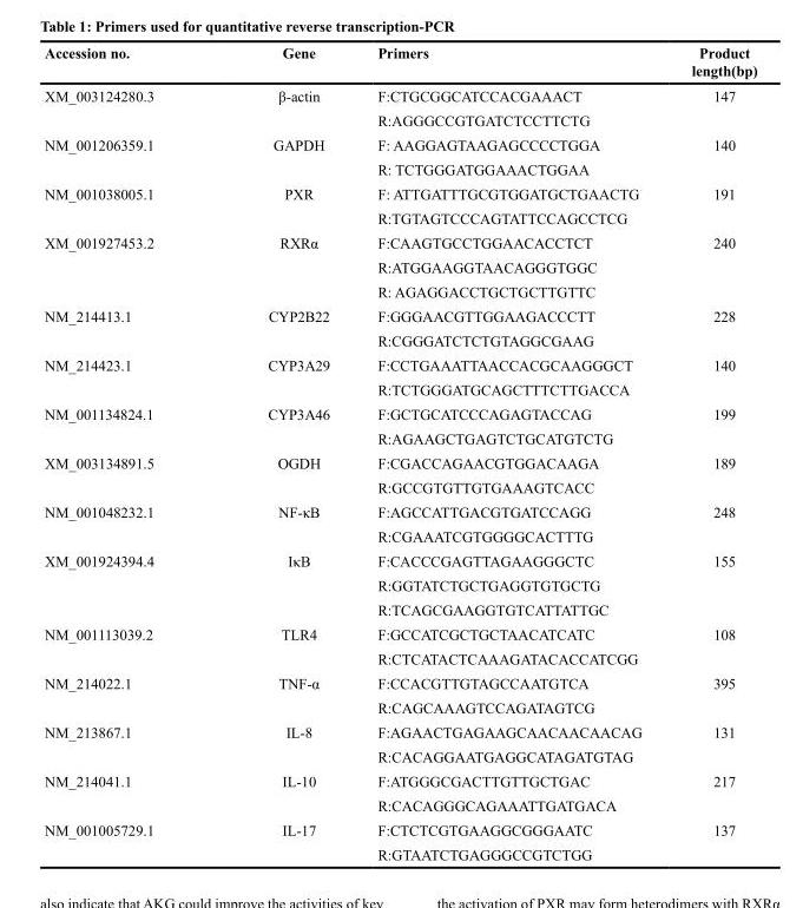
<table><thead><tr><td>Accession no.</td><td>Gene</td><td>Primers</td><td>Product length(bp)</td></tr></thead><tbody><tr><td rowspan="2">XM_003124280.3</td><td>β-actin</td><td>F:CTGCGGCATCCACGAAACT</td><td>147</td></tr><tr><td></td><td>R:AGGGCCGTGATCTCCTTCTG</td><td></td></tr><tr><td rowspan="2">NM_001206359.1</td><td>GAPDH</td><td>F: AAGGAGTAAGAGCCCCTGGA</td><td>140</td></tr><tr><td></td><td>R: TCTGGGATGGAAACTGGAA</td><td></td></tr><tr><td rowspan="2">NM_001038005.1</td><td>PXR</td><td>F: ATTGATTTGCGTGGATGCTGAACTG</td><td>191</td></tr><tr><td></td><td>R:TGTAGTCCCAGTATTCCAGCCTCG</td><td></td></tr><tr><td rowspan="3">XM_001927453.2</td><td>RXRα</td><td>F:CAAGTGCCTGGAACACCTCT</td><td>240</td></tr><tr><td></td><td>R:ATGGAAGGTAACAGGGTGGC</td><td></td></tr><tr><td></td><td>R: AGAGGACCTGCTGCTTGTTC</td><td></td></tr><tr><td rowspan="2">NM_214413.1</td><td>CYP2B22</td><td>F:GGGAACGTTGGAAGACCCTT</td><td>228</td></tr><tr><td></td><td>R:CGGGATCTCTGTAGGCGAAG</td><td></td></tr><tr><td rowspan="2">NM_214423.1</td><td>CYP3A29</td><td>F:CCTGAAATTAACCACGCAAGGGCT</td><td>140</td></tr><tr><td></td><td>R:TCTGGGATGCAGCTTTCTTGACCA</td><td></td></tr><tr><td rowspan="2">NM_001134824.1</td><td>CYP3A46</td><td>F:GCTGCATCCCAGAGTACCAG</td><td>199</td></tr><tr><td></td><td>R:AGAAGCTGAGTCTGCATGTCTG</td><td></td></tr><tr><td rowspan="2">XM_003134891.5</td><td>OGDH</td><td>F:CGACCAGAACGTGGACAAGA</td><td>189</td></tr><tr><td></td><td>R:GCCGTGTTGTGAAAGTCACC</td><td></td></tr><tr><td rowspan="2">NM_001048232.1</td><td>NF-κB</td><td>F:AGCCATTGACGTGATCCAGG</td><td>248</td></tr><tr><td></td><td>R:CGAAATCGTGGGGCACTTTG</td><td></td></tr><tr><td rowspan="3">XM_001924394.4</td><td>IκB</td><td>F:CACCCGAGTTAGAAGGGCTC</td><td>155</td></tr><tr><td></td><td>R:GGTATCTGCTGAGGTGTGCTG</td><td></td></tr><tr><td></td><td>R:TCAGCGAAGGTGTCATTATTGC</td><td></td></tr><tr><td rowspan="2">NM_001113039.2</td><td>TLR4</td><td>F:GCCATCGCTGCTAACATCATC</td><td>108</td></tr><tr><td></td><td>R:CTCATACTCAAAGATACACCATCGG</td><td></td></tr><tr><td rowspan="2">NM_214022.1</td><td>TNF-α</td><td>F:CCACGTTGTAGCCAATGTCA</td><td>395</td></tr><tr><td></td><td>R:CAGCAAAGTCCAGATAGTCG</td><td></td></tr><tr><td rowspan="2">NM_213867.1</td><td>IL-8</td><td>F:AGAACTGAGAAGCAACAACAACAG</td><td>131</td></tr><tr><td></td><td>R:CACAGGAATGAGGCATAGATGTAG</td><td></td></tr><tr><td rowspan="2">NM_214041.1</td><td>IL-10</td><td>F:ATGGGCGACTTGTTGCTGAC</td><td>217</td></tr><tr><td></td><td>R:CACAGGGCAGAAATTGATGACA</td><td></td></tr><tr><td rowspan="2">NM_001005729.1</td><td>IL-17</td><td>F:CTCTCGTGAAGGCGGGAATC</td><td>137</td></tr><tr><td></td><td>R:GTAATCTGAGGGCCGTCTGG</td><td></td></tr></tbody></table>